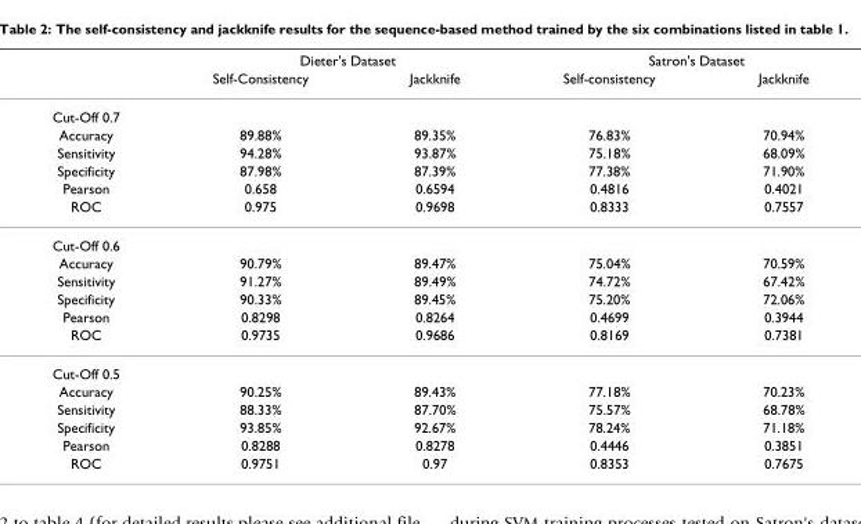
<table><thead><tr><td rowspan="2"></td><td colspan="2">Dieter&#x27;s Dataset</td><td colspan="2">Satron&#x27;s Dataset</td></tr><tr><td>Self-Consistency</td><td>Jackknife</td><td>Self-consistency</td><td>Jackknife</td></tr></thead><tbody><tr><td colspan="5">Cut-Off 0.7</td></tr><tr><td>Accuracy</td><td>89.88%</td><td>89.35%</td><td>76.83%</td><td>70.94%</td></tr><tr><td>Sensitivity</td><td>94.28%</td><td>93.87%</td><td>75.18%</td><td>68.09%</td></tr><tr><td>Specificity</td><td>87.98%</td><td>87.39%</td><td>77.38%</td><td>71.90%</td></tr><tr><td>Pearson</td><td>0.658</td><td>0.6594</td><td>0.4816</td><td>0.4021</td></tr><tr><td>ROC</td><td>0.975</td><td>0.9698</td><td>0.8333</td><td>0.7557</td></tr><tr><td colspan="5">Cut-Off 0.6</td></tr><tr><td>Accuracy</td><td>90.79%</td><td>89.47%</td><td>75.04%</td><td>70.59%</td></tr><tr><td>Sensitivity</td><td>91.27%</td><td>89.49%</td><td>74.72%</td><td>67.42%</td></tr><tr><td>Specificity</td><td>90.33%</td><td>89.45%</td><td>75.20%</td><td>72.06%</td></tr><tr><td>Pearson</td><td>0.8298</td><td>0.8264</td><td>0.4699</td><td>0.3944</td></tr><tr><td>ROC</td><td>0.9735</td><td>0.9686</td><td>0.8169</td><td>0.7381</td></tr><tr><td colspan="5">Cut-Off 0.5</td></tr><tr><td>Accuracy</td><td>90.25%</td><td>89.43%</td><td>77.18%</td><td>70.23%</td></tr><tr><td>Sensitivity</td><td>88.33%</td><td>87.70%</td><td>75.57%</td><td>68.78%</td></tr><tr><td>Specificity</td><td>93.85%</td><td>92.67%</td><td>78.24%</td><td>71.18%</td></tr><tr><td>Pearson</td><td>0.8288</td><td>0.8278</td><td>0.4446</td><td>0.3851</td></tr><tr><td>ROC</td><td>0.9751</td><td>0.97</td><td>0.8353</td><td>0.7675</td></tr></tbody></table>